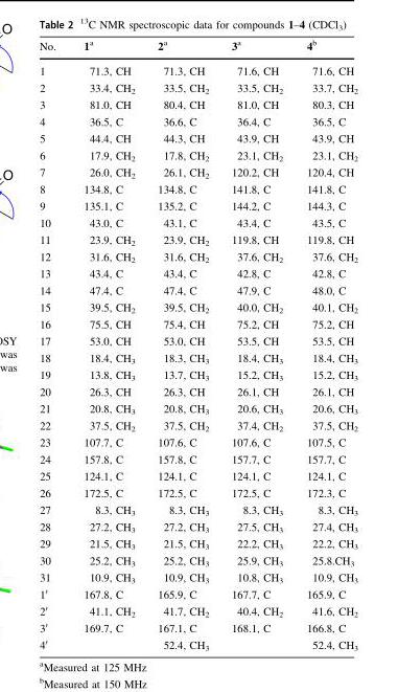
<table><thead><tr><td>No.</td><td>1<sup>a</sup></td><td>2<sup>a</sup></td><td>3<sup>a</sup></td><td>4<sup>b</sup></td></tr></thead><tbody><tr><td>1</td><td>71.3, CH</td><td>71.3, CH</td><td>71.6, CH</td><td>71.6, CH</td></tr><tr><td>2</td><td>33.4, CH<sub>2</sub></td><td>33.5, CH<sub>2</sub></td><td>33.5, CH<sub>2</sub></td><td>33.7, CH<sub>2</sub></td></tr><tr><td>3</td><td>81.0, CH</td><td>80.4, CH</td><td>81.0, CH</td><td>80.3, CH</td></tr><tr><td>4</td><td>36.5, C</td><td>36.6, C</td><td>36.4, C</td><td>36.5, C</td></tr><tr><td>5</td><td>44.4, CH</td><td>44.3, CH</td><td>43.9, CH</td><td>43.9, CH</td></tr><tr><td>6</td><td>17.9, CH<sub>2</sub></td><td>17.8, CH<sub>2</sub></td><td>23.1, CH<sub>2</sub></td><td>23.1, CH<sub>2</sub></td></tr><tr><td>7</td><td>26.0, CH<sub>2</sub></td><td>26.1, CH<sub>2</sub></td><td>120.2, CH</td><td>120.4, CH</td></tr><tr><td>8</td><td>134.8, C</td><td>134.8, C</td><td>141.8, C</td><td>141.8, C</td></tr><tr><td>9</td><td>135.1, C</td><td>135.2, C</td><td>144.2, C</td><td>144.3, C</td></tr><tr><td>10</td><td>43.0, C</td><td>43.1, C</td><td>43.4, C</td><td>43.5, C</td></tr><tr><td>11</td><td>23.9, CH<sub>2</sub></td><td>23.9, CH<sub>2</sub></td><td>119.8, CH</td><td>119.8, CH</td></tr><tr><td>12</td><td>31.6, CH<sub>2</sub></td><td>31.6, CH<sub>2</sub></td><td>37.6, CH<sub>2</sub></td><td>37.6, CH<sub>2</sub></td></tr><tr><td>13</td><td>43.4, C</td><td>43.4, C</td><td>42.8, C</td><td>42.8, C</td></tr><tr><td>14</td><td>47.4, C</td><td>47.4, C</td><td>47.9, C</td><td>48.0, C</td></tr><tr><td>15</td><td>39.5, CH<sub>2</sub></td><td>39.5, CH<sub>2</sub></td><td>40.0, CH<sub>2</sub></td><td>40.1, CH<sub>2</sub></td></tr><tr><td>16</td><td>75.5, CH</td><td>75.4, CH</td><td>75.2, CH</td><td>75.2, CH</td></tr><tr><td>17</td><td>53.0, CH</td><td>53.0, CH</td><td>53.5, CH</td><td>53.5, CH</td></tr><tr><td>18</td><td>18.4, CH<sub>3</sub></td><td>18.3, CH<sub>3</sub></td><td>18.4, CH<sub>3</sub></td><td>18.4, CH<sub>3</sub></td></tr><tr><td>19</td><td>13.8, CH<sub>3</sub></td><td>13.7, CH<sub>3</sub></td><td>15.2, CH<sub>3</sub></td><td>15.2, CH<sub>3</sub></td></tr><tr><td>20</td><td>26.3, CH</td><td>26.3, CH</td><td>26.1, CH</td><td>26.1, CH</td></tr><tr><td>21</td><td>20.8, CH<sub>3</sub></td><td>20.8, CH<sub>3</sub></td><td>20.6, CH<sub>3</sub></td><td>20.6, CH<sub>3</sub></td></tr><tr><td>22</td><td>37.5, CH<sub>2</sub></td><td>37.5, CH<sub>2</sub></td><td>37.4, CH<sub>2</sub></td><td>37.5, CH<sub>2</sub></td></tr><tr><td>23</td><td>107.7, C</td><td>107.6, C</td><td>107.6, C</td><td>107.5, C</td></tr><tr><td>24</td><td>157.8, C</td><td>157.8, C</td><td>157.7, C</td><td>157.7, C</td></tr><tr><td>25</td><td>124.1, C</td><td>124.1, C</td><td>124.1, C</td><td>124.1, C</td></tr><tr><td>26</td><td>172.5, C</td><td>172.5, C</td><td>172.5, C</td><td>172.3, C</td></tr><tr><td>27</td><td>8.3, CH<sub>3</sub></td><td>8.3, CH<sub>3</sub></td><td>8.3, CH<sub>3</sub></td><td>8.3, CH<sub>3</sub></td></tr><tr><td>28</td><td>27.2, CH<sub>3</sub></td><td>27.2, CH<sub>3</sub></td><td>27.5, CH<sub>3</sub></td><td>27.4, CH<sub>3</sub></td></tr><tr><td>29</td><td>21.5, CH<sub>3</sub></td><td>21.5, CH<sub>3</sub></td><td>22.2, CH<sub>3</sub></td><td>22.2, CH<sub>3</sub></td></tr><tr><td>30</td><td>25.2, CH<sub>3</sub></td><td>25.2, CH<sub>3</sub></td><td>25.9, CH<sub>3</sub></td><td>25.8.CH<sub>3</sub></td></tr><tr><td>31</td><td>10.9, CH<sub>3</sub></td><td>10.9, CH<sub>3</sub></td><td>10.8, CH<sub>3</sub></td><td>10.9, CH<sub>3</sub></td></tr><tr><td>1′</td><td>167.8, C</td><td>165.9, C</td><td>167.7, C</td><td>165.9, C</td></tr><tr><td>2′</td><td>41.1, CH<sub>2</sub></td><td>41.7, CH<sub>2</sub></td><td>40.4, CH<sub>2</sub></td><td>41.6, CH<sub>2</sub></td></tr><tr><td>3′</td><td>169.7, C</td><td>167.1, C</td><td>168.1, C</td><td>166.8, C</td></tr><tr><td>4′</td><td></td><td>52.4, CH<sub>3</sub></td><td></td><td>52.4, CH<sub>3</sub></td></tr></tbody></table>